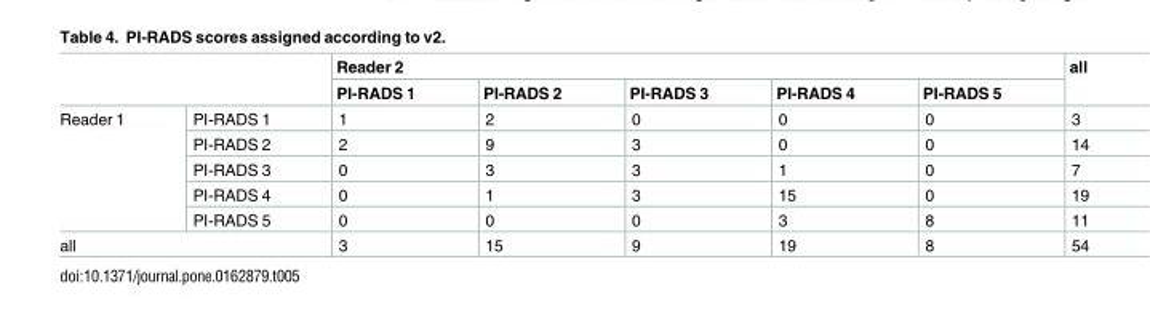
<table><thead><tr><td rowspan="2"></td><td rowspan="2"></td><td colspan="5">Reader 2</td><td rowspan="2">all</td></tr><tr><td>PI-RADS 1</td><td>PI-RADS 2</td><td>PI-RADS 3</td><td>PI-RADS 4</td><td>PI-RADS 5</td></tr></thead><tbody><tr><td rowspan="5">Reader 1</td><td>PI-RADS 1</td><td>1</td><td>2</td><td>0</td><td>0</td><td>0</td><td>3</td></tr><tr><td>PI-RADS 2</td><td>2</td><td>9</td><td>3</td><td>0</td><td>0</td><td>14</td></tr><tr><td>PI-RADS 3</td><td>0</td><td>3</td><td>3</td><td>1</td><td>0</td><td>7</td></tr><tr><td>PI-RADS 4</td><td>0</td><td>1</td><td>3</td><td>15</td><td>0</td><td>19</td></tr><tr><td>PI-RADS 5</td><td>0</td><td>0</td><td>0</td><td>3</td><td>8</td><td>11</td></tr><tr><td colspan="2">all</td><td>3</td><td>15</td><td>9</td><td>19</td><td>8</td><td>54</td></tr></tbody></table>